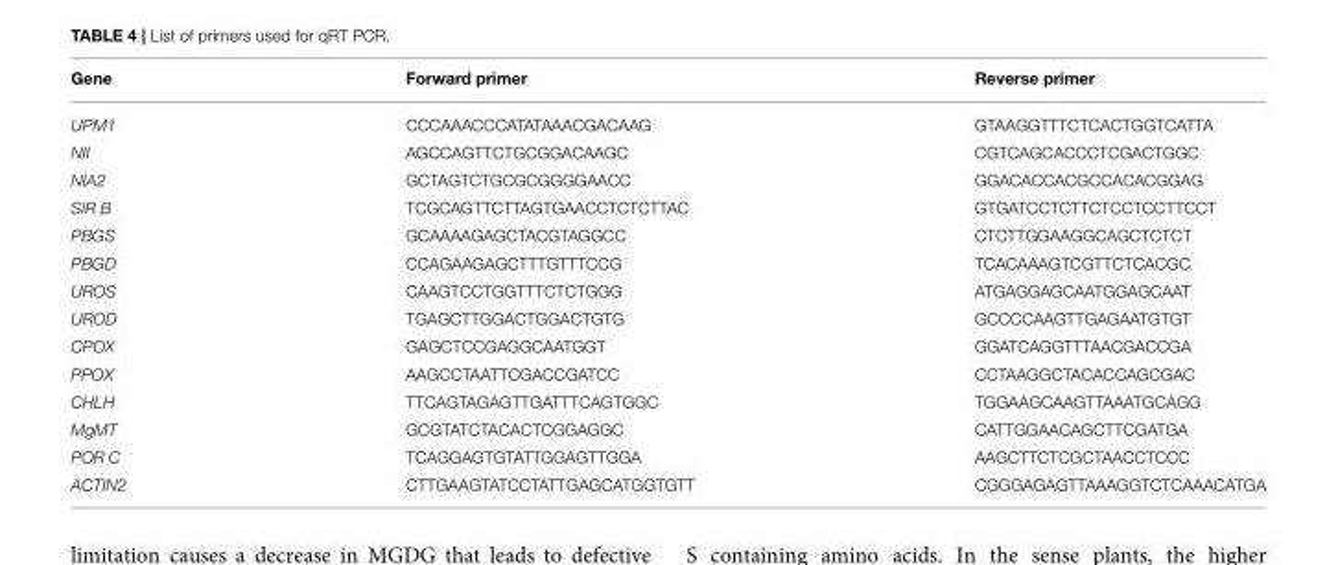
<table><thead><tr><td>Gene</td><td>Forward primer</td><td>Reverse primer</td></tr></thead><tbody><tr><td>UPM1</td><td>CCCAAACCCATATAAACGACAAG</td><td>GTAAGGTTTCTCACTGGTCATTA</td></tr><tr><td>NII</td><td>AGCCAGTTCTGCGGACAAGC</td><td>CGTCAGCACCCTCGACTGGC</td></tr><tr><td>NIA2</td><td>GCTAGTCTGCGCGGGGAACC</td><td>GGACACCACGCCACACGGAG</td></tr><tr><td>SIR B</td><td>TCGCAGTTCTTAGTGAACCTCTCTTAC</td><td>GTGATCCTCTTCTCCTCCTTCCT</td></tr><tr><td>PBGS</td><td>GCAAAAGAGCTACGTAGGCC</td><td>CTCTTGGAAGGCAGCTCTCT</td></tr><tr><td>PBGD</td><td>CCAGAAGAGCTTTGTTTCCG</td><td>TCACAAAGTCGTTCTCACGC</td></tr><tr><td>UROS</td><td>CAAGTCCTGGTTTCTCTGGG</td><td>ATGAGGAGCAATGGAGCAAT</td></tr><tr><td>UROD</td><td>TGAGCTTGGACTGGACTGTG</td><td>GCCCCAAGTTGAGAATGTGT</td></tr><tr><td>CPOX</td><td>GAGCTCCGAGGCAATGGT</td><td>GGATCAGGTTTAACGACCGA</td></tr><tr><td>PPOX</td><td>AAGCCTAATTCGACCGATCC</td><td>CCTAAGGCTACACCAGCGAC</td></tr><tr><td>CHLH</td><td>TTCAGTAGAGTTGATTTCAGTGGC</td><td>TGGAAGCAAGTTAAATGCAGG</td></tr><tr><td>MgMT</td><td>GCGTATCTACACTCGGAGGC</td><td>CATTGGAACAGCTTCGATGA</td></tr><tr><td>POR C</td><td>TCAGGAGTGTATTGGAGTTGGA</td><td>AAGCTTCTCGCTAACCTCCC</td></tr><tr><td>ACTIN2</td><td>CTTGAAGTATCCTATTGAGCATGGTGTT</td><td>CGGGAGAGTTAAAGGTCTCAAACATGA</td></tr></tbody></table>